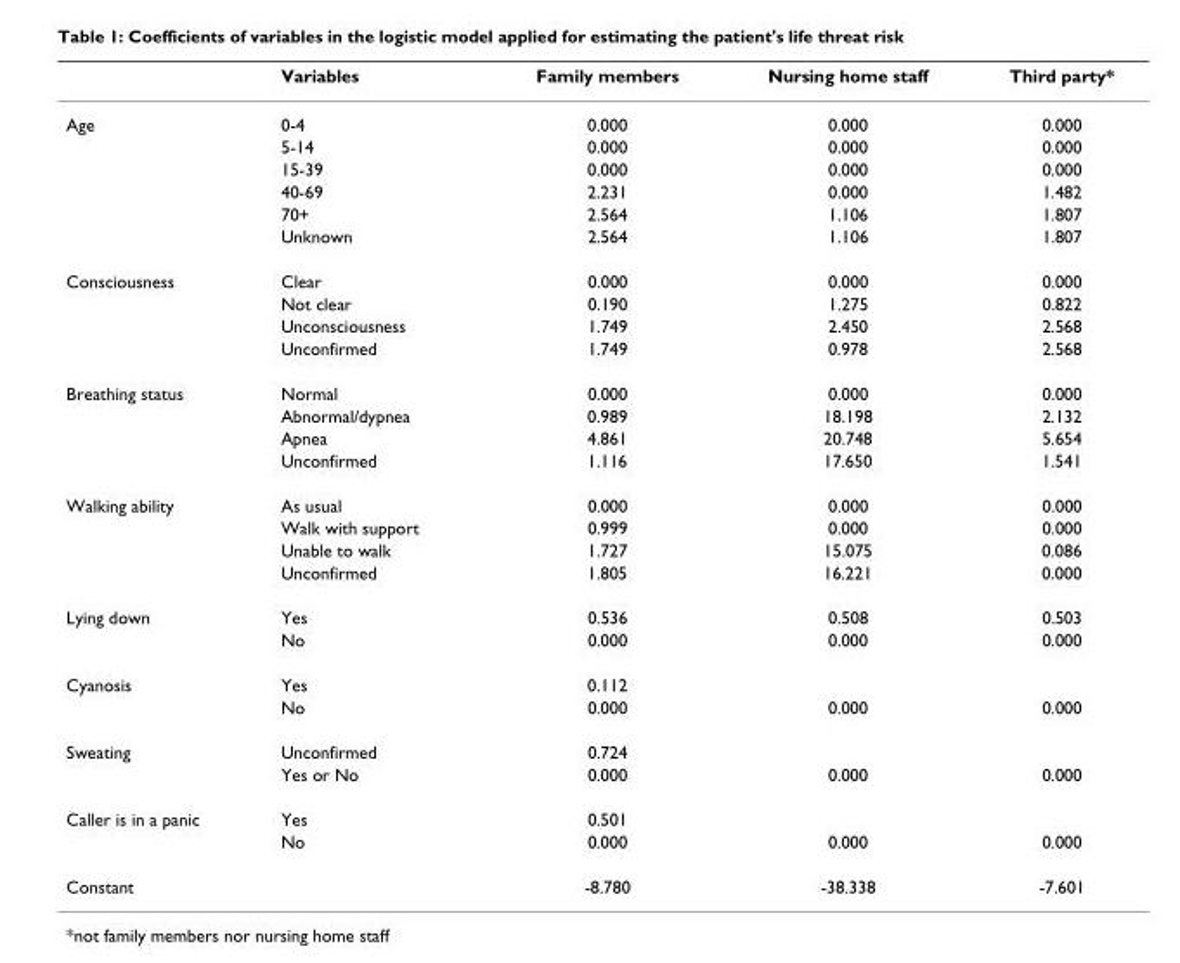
<table><thead><tr><td></td><td>Variables</td><td>Family members</td><td>Nursing home staff</td><td>Third party*</td></tr></thead><tbody><tr><td rowspan="6">Age</td><td>0-4</td><td>0.000</td><td>0.000</td><td>0.000</td></tr><tr><td>5-14</td><td>0.000</td><td>0.000</td><td>0.000</td></tr><tr><td>15-39</td><td>0.000</td><td>0.000</td><td>0.000</td></tr><tr><td>40-69</td><td>2.231</td><td>0.000</td><td>1.482</td></tr><tr><td>70+</td><td>2.564</td><td>1.106</td><td>1.807</td></tr><tr><td>Unknown</td><td>2.564</td><td>1.106</td><td>1.807</td></tr><tr><td rowspan="4">Consciousness</td><td>Clear</td><td>0.000</td><td>0.000</td><td>0.000</td></tr><tr><td>Not clear</td><td>0.190</td><td>1.275</td><td>0.822</td></tr><tr><td>Unconsciousness</td><td>1.749</td><td>2.450</td><td>2.568</td></tr><tr><td>Unconfirmed</td><td>1.749</td><td>0.978</td><td>2.568</td></tr><tr><td rowspan="4">Breathing status</td><td>Normal</td><td>0.000</td><td>0.000</td><td>0.000</td></tr><tr><td>Abnormal/dypnea</td><td>0.989</td><td>18.198</td><td>2.132</td></tr><tr><td>Apnea</td><td>4.861</td><td>20.748</td><td>5.654</td></tr><tr><td>Unconfirmed</td><td>1.116</td><td>17.650</td><td>1.541</td></tr><tr><td rowspan="4">Walking ability</td><td>As usual</td><td>0.000</td><td>0.000</td><td>0.000</td></tr><tr><td>Walk with support</td><td>0.999</td><td>0.000</td><td>0.000</td></tr><tr><td>Unable to walk</td><td>1.727</td><td>15.075</td><td>0.086</td></tr><tr><td>Unconfirmed</td><td>1.805</td><td>16.221</td><td>0.000</td></tr><tr><td rowspan="2">Lying down</td><td>Yes</td><td>0.536</td><td>0.508</td><td>0.503</td></tr><tr><td>No</td><td>0.000</td><td>0.000</td><td>0.000</td></tr><tr><td rowspan="2">Cyanosis</td><td>Yes</td><td>0.112</td><td></td><td></td></tr><tr><td>No</td><td>0.000</td><td>0.000</td><td>0.000</td></tr><tr><td rowspan="2">Sweating</td><td>Unconfirmed</td><td>0.724</td><td></td><td></td></tr><tr><td>Yes or No</td><td>0.000</td><td>0.000</td><td>0.000</td></tr><tr><td rowspan="2">Caller is in a panic</td><td>Yes</td><td>0.501</td><td></td><td></td></tr><tr><td>No</td><td>0.000</td><td>0.000</td><td>0.000</td></tr><tr><td>Constant</td><td></td><td>-8.780</td><td>-38.338</td><td>-7.601</td></tr></tbody></table>